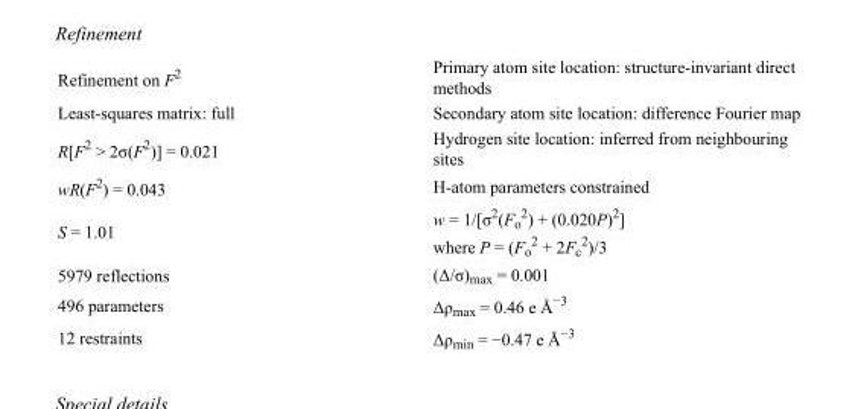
<table><tbody><tr><td>Refinement on F<sup>2</sup></td><td>Primary atom site location: structure-invariant direct methods</td></tr><tr><td>Least-squares matrix: full</td><td>Secondary atom site location: difference Fourier map</td></tr><tr><td>R[F<sup>2</sup> &gt; 2σ(F<sup>2</sup>)] = 0.021</td><td>Hydrogen site location: inferred from neighbouring sites</td></tr><tr><td>wR(F<sup>2</sup>) = 0.043</td><td>H-atom parameters constrained</td></tr><tr><td>S = 1.01</td><td>w = 1/[σ<sup>2</sup>(F<sub>o</sub> <sup>2</sup>) + (0.020P)<sup>2</sup>] where P = (F<sub>o</sub> <sup>2</sup> + 2F<sub>c</sub> <sup>2</sup>)/3</td></tr><tr><td>5979 reflections</td><td>(Δ/σ)<sub>max</sub> = 0.001</td></tr><tr><td>496 parameters</td><td>Δρ<sub>max</sub> = 0.46 e Å<sup>−3</sup></td></tr><tr><td>12 restraints</td><td>Δρ<sub>min</sub> = −0.47 e Å<sup>−3</sup></td></tr></tbody></table>